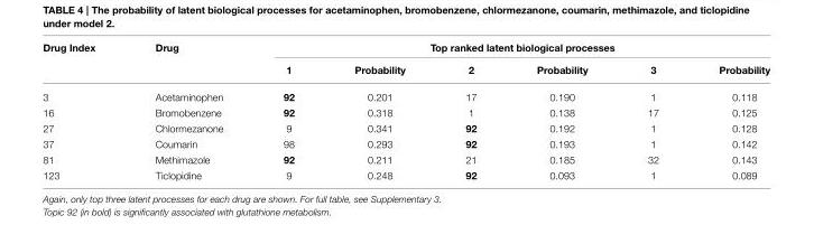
<table><thead><tr><td rowspan="2">Drug Index</td><td rowspan="2">Drug</td><td colspan="6">Top ranked latent biological processes</td></tr><tr><td>1</td><td>Probability</td><td>2</td><td>Probability</td><td>3</td><td>Probability</td></tr></thead><tbody><tr><td>3</td><td>Acetaminophen</td><td>92</td><td>0.201</td><td>17</td><td>0.190</td><td>1</td><td>0.118</td></tr><tr><td>16</td><td>Bromobenzene</td><td>92</td><td>0.318</td><td>1</td><td>0.138</td><td>17</td><td>0.125</td></tr><tr><td>27</td><td>Chlormezanone</td><td>9</td><td>0.341</td><td>92</td><td>0.192</td><td>1</td><td>0.128</td></tr><tr><td>37</td><td>Coumarin</td><td>98</td><td>0.293</td><td>92</td><td>0.193</td><td>1</td><td>0.142</td></tr><tr><td>81</td><td>Methimazole</td><td>92</td><td>0.211</td><td>21</td><td>0.185</td><td>32</td><td>0.143</td></tr><tr><td>123</td><td>Ticlopidine</td><td>9</td><td>0.248</td><td>92</td><td>0.093</td><td>1</td><td>0.089</td></tr></tbody></table>